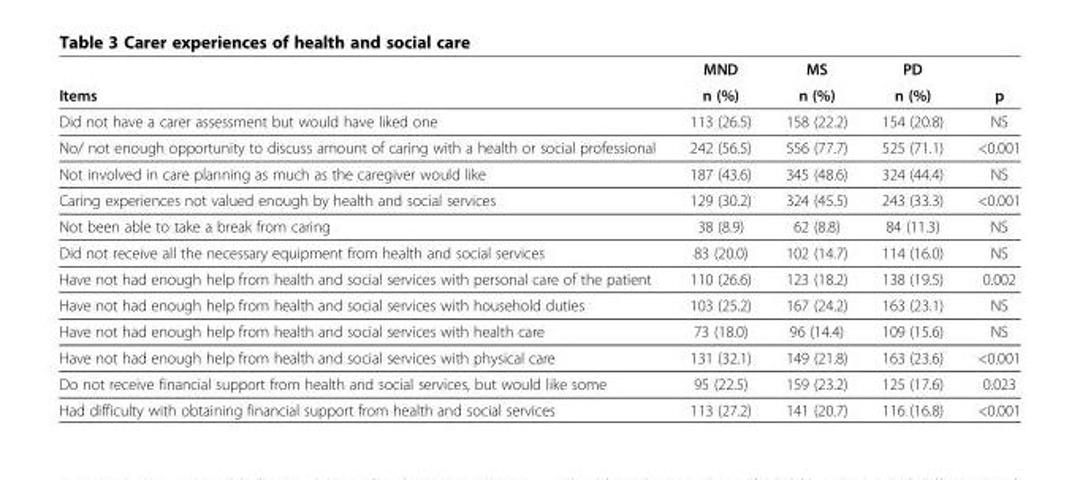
<table><thead><tr><td rowspan="2">Items</td><td rowspan="2">MND n (%)</td><td rowspan="2">MS n (%)</td><td rowspan="2">PD n (%)</td><td rowspan="2">p</td></tr><tr></tr></thead><tbody><tr><td>Did not have a carer assessment but would have liked one</td><td>113 (26.5)</td><td>158 (22.2)</td><td>154 (20.8)</td><td>NS</td></tr><tr><td>No/ not enough opportunity to discuss amount of caring with a health or social professional</td><td>242 (56.5)</td><td>556 (77.7)</td><td>525 (71.1)</td><td>&lt;0.001</td></tr><tr><td>Not involved in care planning as much as the caregiver would like</td><td>187 (43.6)</td><td>345 (48.6)</td><td>324 (44.4)</td><td>NS</td></tr><tr><td>Caring experiences not valued enough by health and social services</td><td>129 (30.2)</td><td>324 (45.5)</td><td>243 (33.3)</td><td>&lt;0.001</td></tr><tr><td>Not been able to take a break from caring</td><td>38 (8.9)</td><td>62 (8.8)</td><td>84 (11.3)</td><td>NS</td></tr><tr><td>Did not receive all the necessary equipment from health and social services</td><td>83 (20.0)</td><td>102 (14.7)</td><td>114 (16.0)</td><td>NS</td></tr><tr><td>Have not had enough help from health and social services with personal care of the patient</td><td>110 (26.6)</td><td>123 (18.2)</td><td>138 (19.5)</td><td>0.002</td></tr><tr><td>Have not had enough help from health and social services with household duties</td><td>103 (25.2)</td><td>167 (24.2)</td><td>163 (23.1)</td><td>NS</td></tr><tr><td>Have not had enough help from health and social services with health care</td><td>73 (18.0)</td><td>96 (14.4)</td><td>109 (15.6)</td><td>NS</td></tr><tr><td>Have not had enough help from health and social services with physical care</td><td>131 (32.1)</td><td>149 (21.8)</td><td>163 (23.6)</td><td>&lt;0.001</td></tr><tr><td>Do not receive financial support from health and social services, but would like some</td><td>95 (22.5)</td><td>159 (23.2)</td><td>125 (17.6)</td><td>0.023</td></tr><tr><td>Had difficulty with obtaining financial support from health and social services</td><td>113 (27.2)</td><td>141 (20.7)</td><td>116 (16.8)</td><td>&lt;0.001</td></tr></tbody></table>